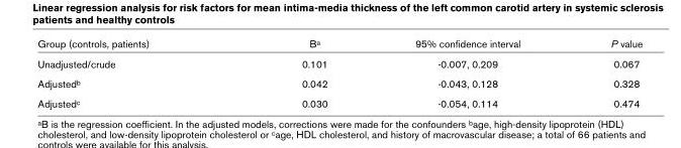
<table><thead><tr><td>Group (controls, patients)</td><td>B<sup>a</sup></td><td>95% confidence interval</td><td>P value</td></tr></thead><tbody><tr><td>Unadjusted/crude</td><td>0.101</td><td>-0.007, 0.209</td><td>0.067</td></tr><tr><td>Adjusted<sup>b</sup></td><td>0.042</td><td>-0.043, 0.128</td><td>0.328</td></tr><tr><td>Adjusted<sup>c</sup></td><td>0.030</td><td>-0.054, 0.114</td><td>0.474</td></tr></tbody></table>